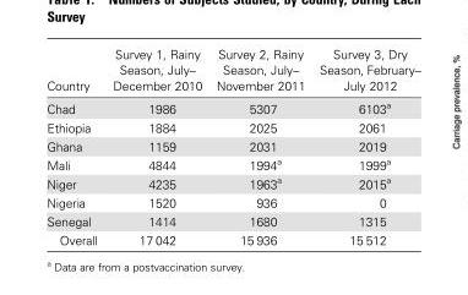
<table><thead><tr><td>Country</td><td>Survey 1, Rainy Season, July– December 2010</td><td>Survey 2, Rainy Season, July– November 2011</td><td>Survey 3, Dry Season, February– July 2012</td></tr></thead><tbody><tr><td>Chad</td><td>1986</td><td>5307</td><td>6103<sup>a</sup></td></tr><tr><td>Ethiopia</td><td>1884</td><td>2025</td><td>2061</td></tr><tr><td>Ghana</td><td>1159</td><td>2031</td><td>2019</td></tr><tr><td>Mali</td><td>4844</td><td>1994<sup>a</sup></td><td>1999<sup>a</sup></td></tr><tr><td>Niger</td><td>4235</td><td>1963<sup>a</sup></td><td>2015<sup>a</sup></td></tr><tr><td>Nigeria</td><td>1520</td><td>936</td><td>0</td></tr><tr><td>Senegal</td><td>1414</td><td>1680</td><td>1315</td></tr><tr><td>Overall</td><td>17 042</td><td>15 936</td><td>15 512</td></tr></tbody></table>